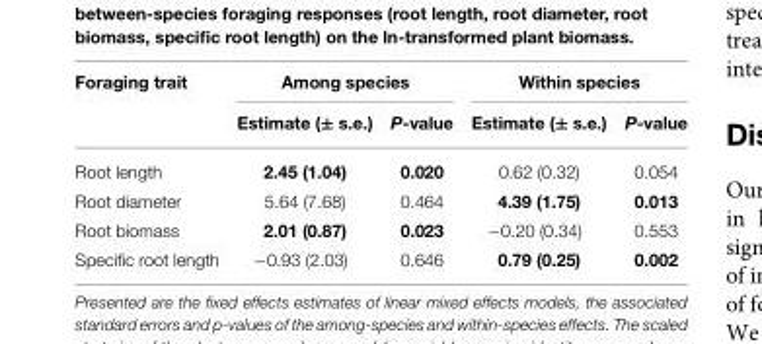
<table><thead><tr><td rowspan="2">Foraging trait</td><td colspan="2">Among species</td><td colspan="2">Within species</td></tr><tr><td>Estimate (± s.e.)</td><td>P-value</td><td>Estimate (± s.e.)</td><td>P-value</td></tr></thead><tbody><tr><td>Root length</td><td>2.45 (1.04)</td><td>0.020</td><td>0.62 (0.32)</td><td>0.054</td></tr><tr><td>Root diameter</td><td>5.64 (7.68)</td><td>0.464</td><td>4.39 (1.75)</td><td>0.013</td></tr><tr><td>Root biomass</td><td>2.01 (0.87)</td><td>0.023</td><td>−0.20 (0.34)</td><td>0.553</td></tr><tr><td>Specific root length</td><td>−0.93 (2.03)</td><td>0.646</td><td>0.79 (0.25)</td><td>0.002</td></tr></tbody></table>